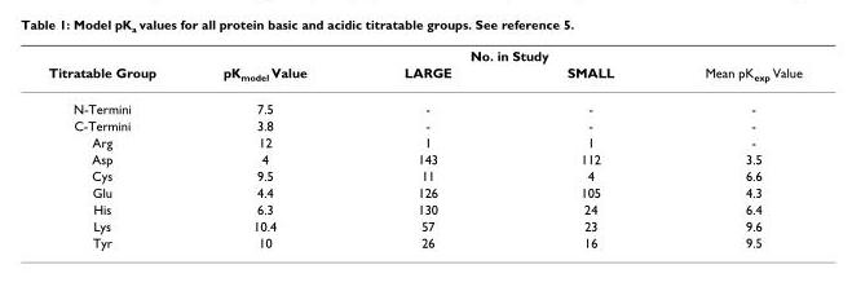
<table><thead><tr><td rowspan="2">Titratable Group</td><td rowspan="2">pKmodel Value</td><td colspan="2">No. in Study</td><td rowspan="2">Mean pK<sub>exp</sub> Value</td></tr><tr><td>LARGE</td><td>SMALL</td></tr></thead><tbody><tr><td>N-Termini</td><td>7.5</td><td>-</td><td>-</td><td>-</td></tr><tr><td>C-Termini</td><td>3.8</td><td>-</td><td>-</td><td>-</td></tr><tr><td>Arg</td><td>12</td><td>1</td><td>1</td><td>-</td></tr><tr><td>Asp</td><td>4</td><td>143</td><td>112</td><td>3.5</td></tr><tr><td>Cys</td><td>9.5</td><td>11</td><td>4</td><td>6.6</td></tr><tr><td>Glu</td><td>4.4</td><td>126</td><td>105</td><td>4.3</td></tr><tr><td>His</td><td>6.3</td><td>130</td><td>24</td><td>6.4</td></tr><tr><td>Lys</td><td>10.4</td><td>57</td><td>23</td><td>9.6</td></tr><tr><td>Tyr</td><td>10</td><td>26</td><td>16</td><td>9.5</td></tr></tbody></table>